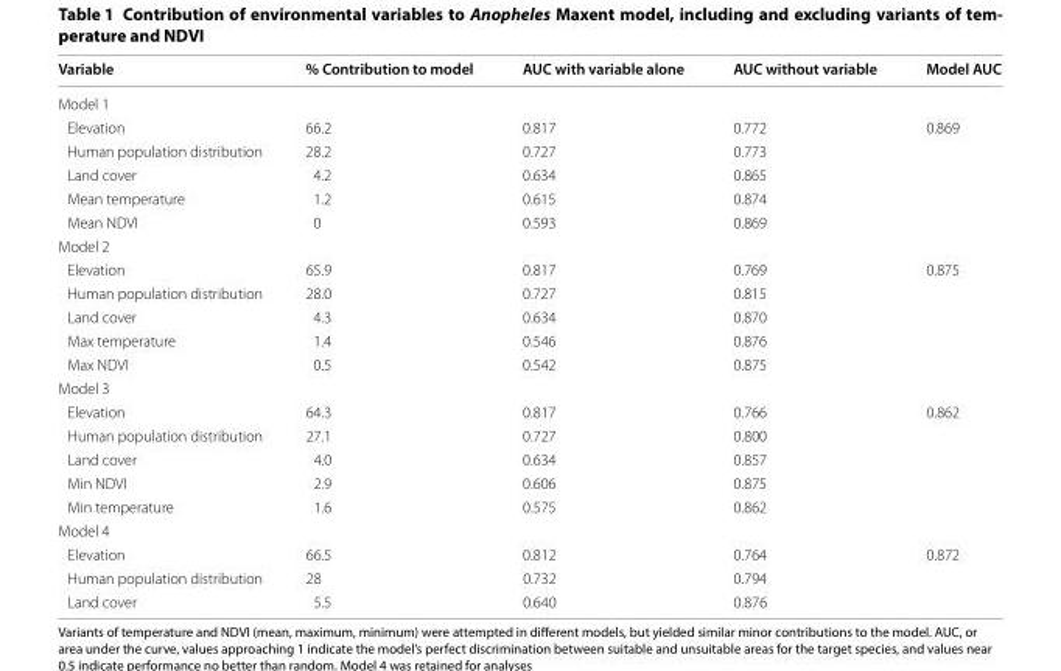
<table><thead><tr><td>Variable</td><td>% Contribution to model</td><td>AUC with variable alone</td><td>AUC without variable</td><td>Model AUC</td></tr></thead><tbody><tr><td colspan="5">Model 1</td></tr><tr><td>Elevation</td><td>66.2</td><td>0.817</td><td>0.772</td><td>0.869</td></tr><tr><td>Human population distribution</td><td>28.2</td><td>0.727</td><td>0.773</td><td></td></tr><tr><td>Land cover</td><td>4.2</td><td>0.634</td><td>0.865</td><td></td></tr><tr><td>Mean temperature</td><td>1.2</td><td>0.615</td><td>0.874</td><td></td></tr><tr><td>Mean NDVI</td><td>0</td><td>0.593</td><td>0.869</td><td></td></tr><tr><td colspan="5">Model 2</td></tr><tr><td>Elevation</td><td>65.9</td><td>0.817</td><td>0.769</td><td>0.875</td></tr><tr><td>Human population distribution</td><td>28.0</td><td>0.727</td><td>0.815</td><td></td></tr><tr><td>Land cover</td><td>4.3</td><td>0.634</td><td>0.870</td><td></td></tr><tr><td>Max temperature</td><td>1.4</td><td>0.546</td><td>0.876</td><td></td></tr><tr><td>Max NDVI</td><td>0.5</td><td>0.542</td><td>0.875</td><td></td></tr><tr><td colspan="5">Model 3</td></tr><tr><td>Elevation</td><td>64.3</td><td>0.817</td><td>0.766</td><td>0.862</td></tr><tr><td>Human population distribution</td><td>27.1</td><td>0.727</td><td>0.800</td><td></td></tr><tr><td>Land cover</td><td>4.0</td><td>0.634</td><td>0.857</td><td></td></tr><tr><td>Min NDVI</td><td>2.9</td><td>0.606</td><td>0.875</td><td></td></tr><tr><td>Min temperature</td><td>1.6</td><td>0.575</td><td>0.862</td><td></td></tr><tr><td colspan="5">Model 4</td></tr><tr><td>Elevation</td><td>66.5</td><td>0.812</td><td>0.764</td><td>0.872</td></tr><tr><td>Human population distribution</td><td>28</td><td>0.732</td><td>0.794</td><td></td></tr><tr><td>Land cover</td><td>5.5</td><td>0.640</td><td>0.876</td><td></td></tr></tbody></table>